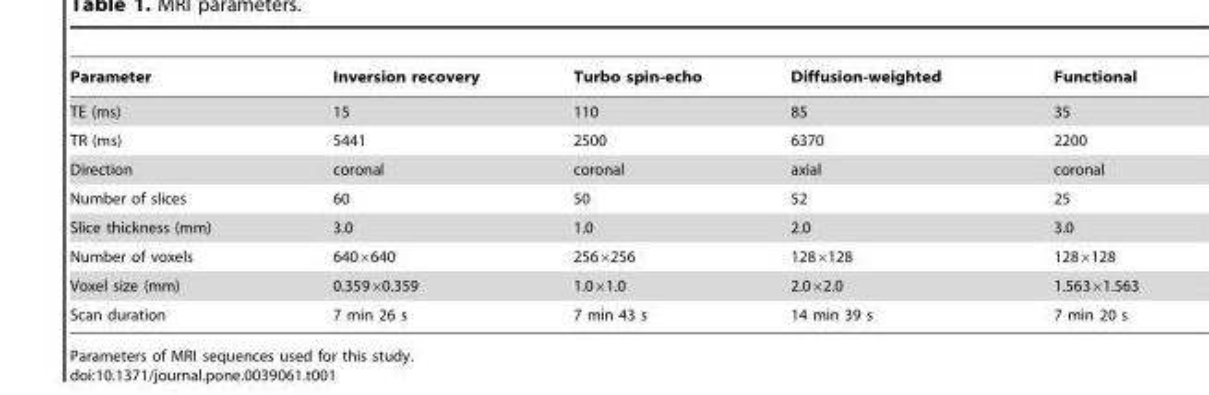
<table><thead><tr><td>Parameter</td><td>Inversion recovery</td><td>Turbo spin-echo</td><td>Diffusion-weighted</td><td>Functional</td></tr></thead><tbody><tr><td>TE (ms)</td><td>15</td><td>110</td><td>85</td><td>35</td></tr><tr><td>TR (ms)</td><td>5441</td><td>2500</td><td>6370</td><td>2200</td></tr><tr><td>Direction</td><td>coronal</td><td>coronal</td><td>axial</td><td>coronal</td></tr><tr><td>Number of slices</td><td>60</td><td>50</td><td>52</td><td>25</td></tr><tr><td>Slice thickness (mm)</td><td>3.0</td><td>1.0</td><td>2.0</td><td>3.0</td></tr><tr><td>Number of voxels</td><td>640×640</td><td>256×256</td><td>128×128</td><td>128×128</td></tr><tr><td>Voxel size (mm)</td><td>0.359×0.359</td><td>1.0×1.0</td><td>2.0×2.0</td><td>1.563×1.563</td></tr><tr><td>Scan duration</td><td>7 min 26 s</td><td>7 min 43 s</td><td>14 min 39 s</td><td>7 min 20 s</td></tr></tbody></table>